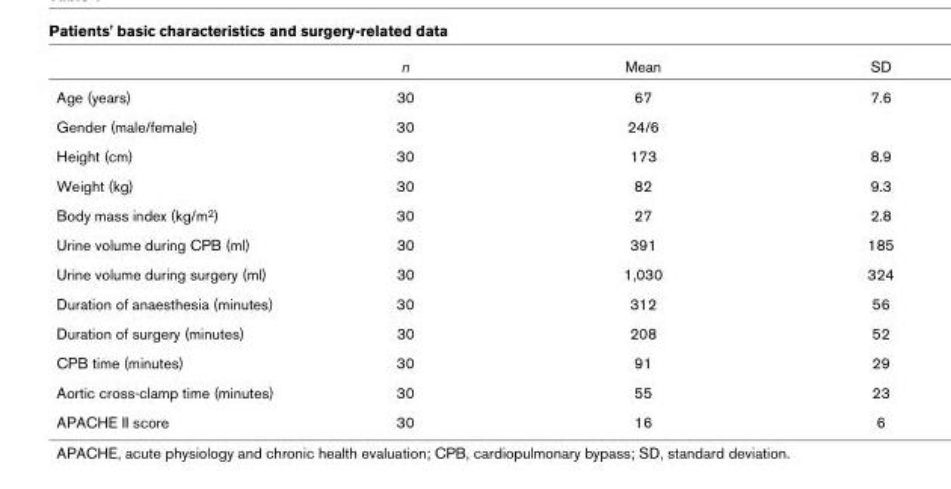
<table><thead><tr><td></td><td>n</td><td>Mean</td><td>SD</td></tr></thead><tbody><tr><td>Age (years)</td><td>30</td><td>67</td><td>7.6</td></tr><tr><td>Gender (male/female)</td><td>30</td><td>24/6</td><td></td></tr><tr><td>Height (cm)</td><td>30</td><td>173</td><td>8.9</td></tr><tr><td>Weight (kg)</td><td>30</td><td>82</td><td>9.3</td></tr><tr><td>Body mass index (kg/m2)</td><td>30</td><td>27</td><td>2.8</td></tr><tr><td>Urine volume during CPB (ml)</td><td>30</td><td>391</td><td>185</td></tr><tr><td>Urine volume during surgery (ml)</td><td>30</td><td>1,030</td><td>324</td></tr><tr><td>Duration of anaesthesia (minutes)</td><td>30</td><td>312</td><td>56</td></tr><tr><td>Duration of surgery (minutes)</td><td>30</td><td>208</td><td>52</td></tr><tr><td>CPB time (minutes)</td><td>30</td><td>91</td><td>29</td></tr><tr><td>Aortic cross-clamp time (minutes)</td><td>30</td><td>55</td><td>23</td></tr><tr><td>APACHE II score</td><td>30</td><td>16</td><td>6</td></tr></tbody></table>